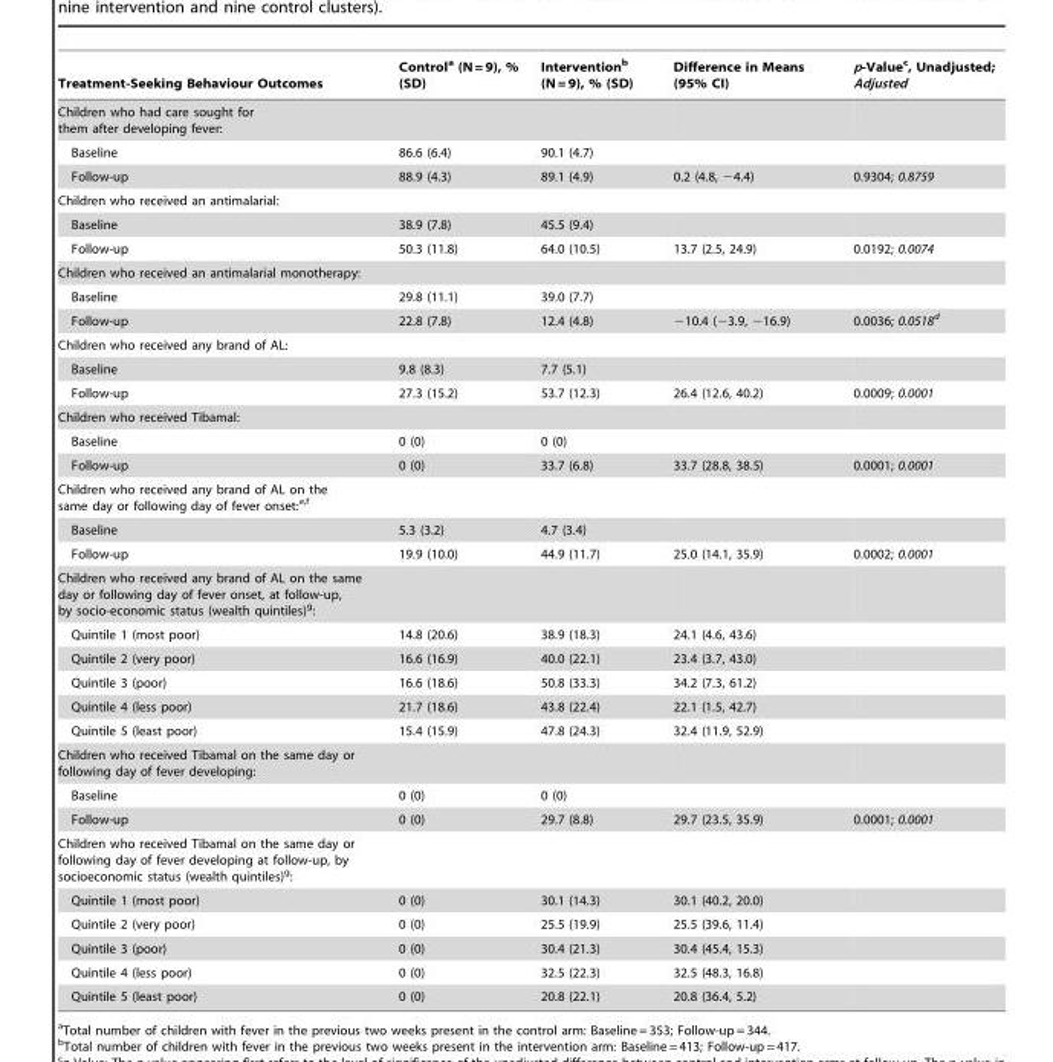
<table><thead><tr><td>Treatment-Seeking Behaviour Outcomes</td><td>Control<sup>a</sup> (N = 9), % (SD)</td><td>Intervention<sup>b</sup> (N = 9), % (SD)</td><td>Difference in Means (95% CI)</td><td>p-Value<sup>c</sup>, Unadjusted; Adjusted</td></tr></thead><tbody><tr><td colspan="5">Children who had care sought for them after developing fever:</td></tr><tr><td>Baseline</td><td>86.6 (6.4)</td><td>90.1 (4.7)</td><td></td><td></td></tr><tr><td>Follow-up</td><td>88.9 (4.3)</td><td>89.1 (4.9)</td><td>0.2 (4.8, −4.4)</td><td>0.9304; 0.8759</td></tr><tr><td colspan="5">Children who received an antimalarial:</td></tr><tr><td>Baseline</td><td>38.9 (7.8)</td><td>45.5 (9.4)</td><td></td><td></td></tr><tr><td>Follow-up</td><td>50.3 (11.8)</td><td>64.0 (10.5)</td><td>13.7 (2.5, 24.9)</td><td>0.0192; 0.0074</td></tr><tr><td colspan="5">Children who received an antimalarial monotherapy:</td></tr><tr><td>Baseline</td><td>29.8 (11.1)</td><td>39.0 (7.7)</td><td></td><td></td></tr><tr><td>Follow-up</td><td>22.8 (7.8)</td><td>12.4 (4.8)</td><td>−10.4 (−3.9, −16.9)</td><td>0.0036; 0.0518d</td></tr><tr><td colspan="5">Children who received any brand of AL:</td></tr><tr><td>Baseline</td><td>9.8 (8.3)</td><td>7.7 (5.1)</td><td></td><td></td></tr><tr><td>Follow-up</td><td>27.3 (15.2)</td><td>53.7 (12.3)</td><td>26.4 (12.6, 40.2)</td><td>0.0009; 0.0001</td></tr><tr><td colspan="5">Children who received Tibamal:</td></tr><tr><td>Baseline</td><td>0 (0)</td><td>0 (0)</td><td></td><td></td></tr><tr><td>Follow-up</td><td>0 (0)</td><td>33.7 (6.8)</td><td>33.7 (28.8, 38.5)</td><td>0.0001; 0.0001</td></tr><tr><td colspan="5">Children who received any brand of AL on the same day or following day of fever onset:<sup>e</sup>,<sup>f</sup></td></tr><tr><td>Baseline</td><td>5.3 (3.2)</td><td>4.7 (3.4)</td><td></td><td></td></tr><tr><td>Follow-up</td><td>19.9 (10.0)</td><td>44.9 (11.7)</td><td>25.0 (14.1, 35.9)</td><td>0.0002; 0.0001</td></tr><tr><td colspan="5">Children who received any brand of AL on the same day or following day of fever onset, at follow-up, by socio-economic status (wealth quintiles)<sup>g</sup>:</td></tr><tr><td>Quintile 1 (most poor)</td><td>14.8 (20.6)</td><td>38.9 (18.3)</td><td>24.1 (4.6, 43.6)</td><td></td></tr><tr><td>Quintile 2 (very poor)</td><td>16.6 (16.9)</td><td>40.0 (22.1)</td><td>23.4 (3.7, 43.0)</td><td></td></tr><tr><td>Quintile 3 (poor)</td><td>16.6 (18.6)</td><td>50.8 (33.3)</td><td>34.2 (7.3, 61.2)</td><td></td></tr><tr><td>Quintile 4 (less poor)</td><td>21.7 (18.6)</td><td>43.8 (22.4)</td><td>22.1 (1.5, 42.7)</td><td></td></tr><tr><td>Quintile 5 (least poor)</td><td>15.4 (15.9)</td><td>47.8 (24.3)</td><td>32.4 (11.9, 52.9)</td><td></td></tr><tr><td colspan="5">Children who received Tibamal on the same day or following day of fever developing:</td></tr><tr><td>Baseline</td><td>0 (0)</td><td>0 (0)</td><td></td><td></td></tr><tr><td>Follow-up</td><td>0 (0)</td><td>29.7 (8.8)</td><td>29.7 (23.5, 35.9)</td><td>0.0001; 0.0001</td></tr><tr><td colspan="5">Children who received Tibamal on the same day or following day of fever developing at follow-up, by socioeconomic status (wealth quintiles)<sup>g</sup>:</td></tr><tr><td>Quintile 1 (most poor)</td><td>0 (0)</td><td>30.1 (14.3)</td><td>30.1 (40.2, 20.0)</td><td></td></tr><tr><td>Quintile 2 (very poor)</td><td>0 (0)</td><td>25.5 (19.9)</td><td>25.5 (39.6, 11.4)</td><td></td></tr><tr><td>Quintile 3 (poor)</td><td>0 (0)</td><td>30.4 (21.3)</td><td>30.4 (45.4, 15.3)</td><td></td></tr><tr><td>Quintile 4 (less poor)</td><td>0 (0)</td><td>32.5 (22.3)</td><td>32.5 (48.3, 16.8)</td><td></td></tr><tr><td>Quintile 5 (least poor)</td><td>0 (0)</td><td>20.8 (22.1)</td><td>20.8 (36.4, 5.2)</td><td></td></tr></tbody></table>